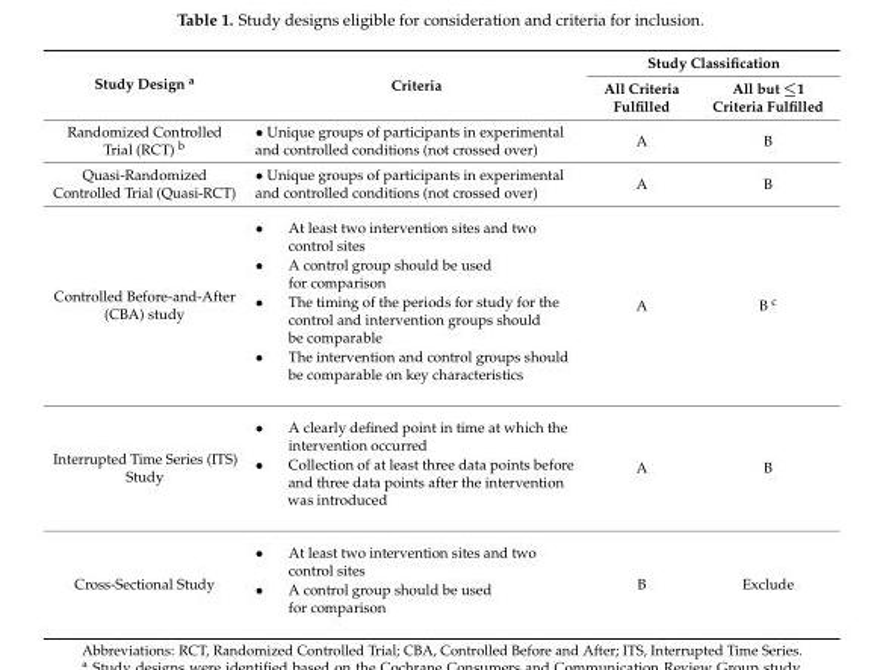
<table><thead><tr><td rowspan="2">Study Design <sup>a</sup></td><td rowspan="2">Criteria</td><td colspan="2">Study Classification</td></tr><tr><td>All Criteria Fulfilled</td><td>All but ≤1 Criteria Fulfilled</td></tr></thead><tbody><tr><td>Randomized Controlled Trial (RCT) <sup>b</sup></td><td>• Unique groups of participants in experimental and controlled conditions (not crossed over)</td><td>A</td><td>B</td></tr><tr><td>Quasi-Randomized Controlled Trial (Quasi-RCT)</td><td>• Unique groups of participants in experimental and controlled conditions (not crossed over)</td><td>A</td><td>B</td></tr><tr><td>Controlled Before-and-After (CBA) study</td><td>• At least two intervention sites and two control sites • A control group should be used for comparison • The timing of the periods for study for the control and intervention groups should be comparable • The intervention and control groups should be comparable on key characteristics</td><td>A</td><td>B <sup>c</sup></td></tr><tr><td>Interrupted Time Series (ITS) Study</td><td>• A clearly defined point in time at which the intervention occurred • Collection of at least three data points before and three data points after the intervention was introduced</td><td>A</td><td>B</td></tr><tr><td>Cross-Sectional Study</td><td>• At least two intervention sites and two control sites • A control group should be used for comparison</td><td>B</td><td>Exclude</td></tr></tbody></table>